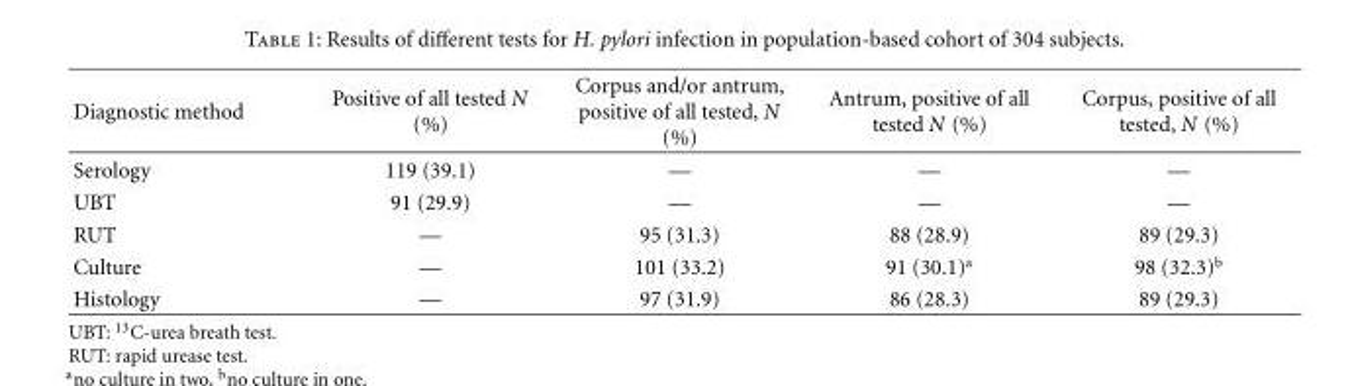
<table><thead><tr><td>Diagnostic method</td><td>Positive of all tested N (%)</td><td>Corpus and/or antrum, positive of all tested, N (%)</td><td>Antrum, positive of all tested N (%)</td><td>Corpus, positive of all tested, N (%)</td></tr></thead><tbody><tr><td>Serology</td><td>119 (39.1)</td><td>—</td><td>—</td><td>—</td></tr><tr><td>UBT</td><td>91 (29.9)</td><td>—</td><td>—</td><td>—</td></tr><tr><td>RUT</td><td>—</td><td>95 (31.3)</td><td>88 (28.9)</td><td>89 (29.3)</td></tr><tr><td>Culture</td><td>—</td><td>101 (33.2)</td><td>91 (30.1)<sup>a</sup></td><td>98 (32.3)<sup>b</sup></td></tr><tr><td>Histology</td><td>—</td><td>97 (31.9)</td><td>86 (28.3)</td><td>89 (29.3)</td></tr></tbody></table>